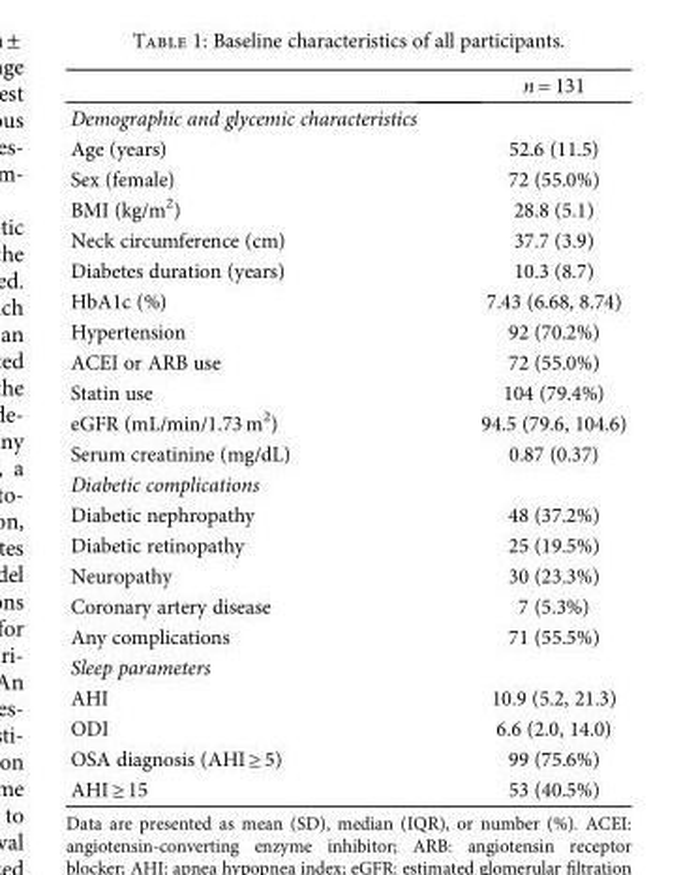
<table><thead><tr><td></td><td>n = 131</td></tr></thead><tbody><tr><td colspan="2">Demographic and glycemic characteristics</td></tr><tr><td>Age (years)</td><td>52.6 (11.5)</td></tr><tr><td>Sex (female)</td><td>72 (55.0%)</td></tr><tr><td>BMI (kg/m<sup>2</sup>)</td><td>28.8 (5.1)</td></tr><tr><td>Neck circumference (cm)</td><td>37.7 (3.9)</td></tr><tr><td>Diabetes duration (years)</td><td>10.3 (8.7)</td></tr><tr><td>HbA1c (%)</td><td>7.43 (6.68, 8.74)</td></tr><tr><td>Hypertension</td><td>92 (70.2%)</td></tr><tr><td>ACEI or ARB use</td><td>72 (55.0%)</td></tr><tr><td>Statin use</td><td>104 (79.4%)</td></tr><tr><td>eGFR (mL/min/1.73 m<sup>2</sup>)</td><td>94.5 (79.6, 104.6)</td></tr><tr><td>Serum creatinine (mg/dL)</td><td>0.87 (0.37)</td></tr><tr><td colspan="2">Diabetic complications</td></tr><tr><td>Diabetic nephropathy</td><td>48 (37.2%)</td></tr><tr><td>Diabetic retinopathy</td><td>25 (19.5%)</td></tr><tr><td>Neuropathy</td><td>30 (23.3%)</td></tr><tr><td>Coronary artery disease</td><td>7 (5.3%)</td></tr><tr><td>Any complications</td><td>71 (55.5%)</td></tr><tr><td colspan="2">Sleep parameters</td></tr><tr><td>AHI</td><td>10.9 (5.2, 21.3)</td></tr><tr><td>ODI</td><td>6.6 (2.0, 14.0)</td></tr><tr><td>OSA diagnosis (AHI ≥ 5)</td><td>99 (75.6%)</td></tr><tr><td>AHI ≥ 15</td><td>53 (40.5%)</td></tr></tbody></table>